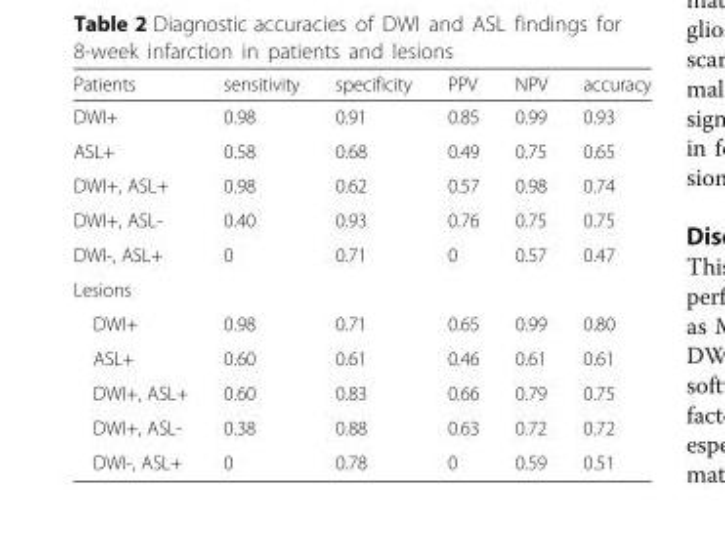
<table><thead><tr><td>Patients</td><td>sensitivity</td><td>specificity</td><td>PPV</td><td>NPV</td><td>accuracy</td></tr></thead><tbody><tr><td>DWI+</td><td>0.98</td><td>0.91</td><td>0.85</td><td>0.99</td><td>0.93</td></tr><tr><td>ASL+</td><td>0.58</td><td>0.68</td><td>0.49</td><td>0.75</td><td>0.65</td></tr><tr><td>DWI+, ASL+</td><td>0.98</td><td>0.62</td><td>0.57</td><td>0.98</td><td>0.74</td></tr><tr><td>DWI+, ASL-</td><td>0.40</td><td>0.93</td><td>0.76</td><td>0.75</td><td>0.75</td></tr><tr><td>DWI-, ASL+</td><td>0</td><td>0.71</td><td>0</td><td>0.57</td><td>0.47</td></tr><tr><td colspan="6">Lesions</td></tr><tr><td>DWI+</td><td>0.98</td><td>0.71</td><td>0.65</td><td>0.99</td><td>0.80</td></tr><tr><td>ASL+</td><td>0.60</td><td>0.61</td><td>0.46</td><td>0.61</td><td>0.61</td></tr><tr><td>DWI+, ASL+</td><td>0.60</td><td>0.83</td><td>0.66</td><td>0.79</td><td>0.75</td></tr><tr><td>DWI+, ASL-</td><td>0.38</td><td>0.88</td><td>0.63</td><td>0.72</td><td>0.72</td></tr><tr><td>DWI-, ASL+</td><td>0</td><td>0.78</td><td>0</td><td>0.59</td><td>0.51</td></tr></tbody></table>